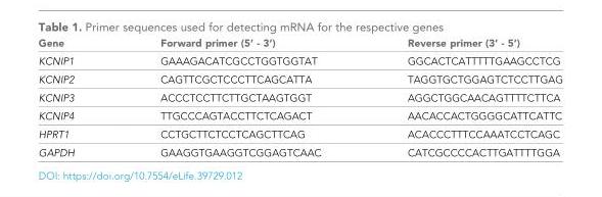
<table><thead><tr><td>Gene</td><td>Forward primer (5’ - 3’)</td><td>Reverse primer (3’ - 5’)</td></tr></thead><tbody><tr><td>KCNIP1</td><td>GAAAGACATCGCCTGGTGGTAT</td><td>GGCACTCATTTTTGAAGCCTCG</td></tr><tr><td>KCNIP2</td><td>CAGTTCGCTCCCTTCAGCATTA</td><td>TAGGTGCTGGAGTCTCCTTGAG</td></tr><tr><td>KCNIP3</td><td>ACCCTCCTTCTTGCTAAGTGGT</td><td>AGGCTGGCAACAGTTTTCTTCA</td></tr><tr><td>KCNIP4</td><td>TTGCCCAGTACCTTCTCAGACT</td><td>AACACCACTGGGGCATTCATTC</td></tr><tr><td>HPRT1</td><td>CCTGCTTCTCCTCAGCTTCAG</td><td>ACACCCTTTCCAAATCCTCAGC</td></tr><tr><td>GAPDH</td><td>GAAGGTGAAGGTCGGAGTCAAC</td><td>CATCGCCCCACTTGATTTTGGA</td></tr></tbody></table>